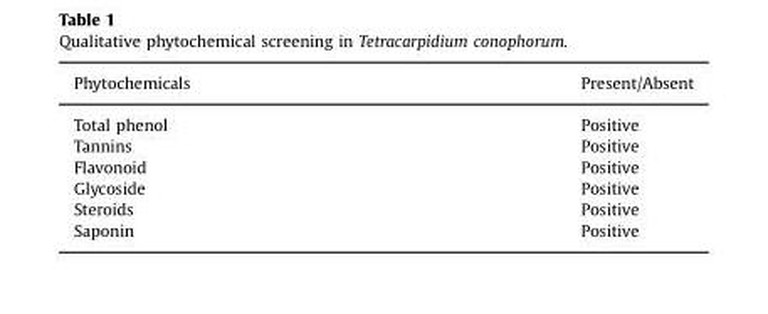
<table><thead><tr><td>Phytochemicals</td><td>Present/Absent</td></tr></thead><tbody><tr><td>Total phenol</td><td>Positive</td></tr><tr><td>Tannins</td><td>Positive</td></tr><tr><td>Flavonoid</td><td>Positive</td></tr><tr><td>Glycoside</td><td>Positive</td></tr><tr><td>Steroids</td><td>Positive</td></tr><tr><td>Saponin</td><td>Positive</td></tr></tbody></table>